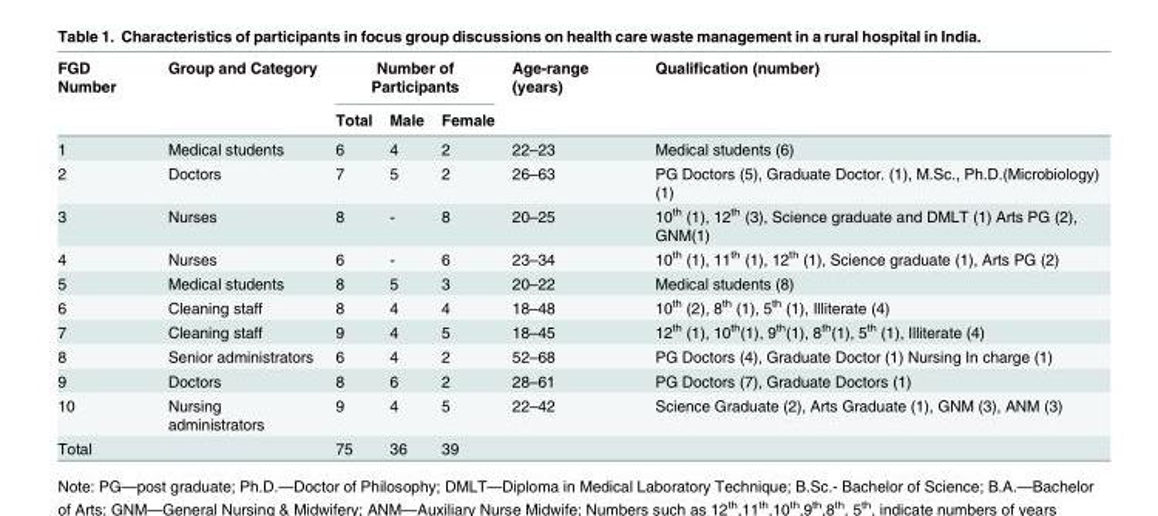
<table><thead><tr><td rowspan="2">FGD Number</td><td rowspan="2">Group and Category</td><td colspan="3">Number of Participants</td><td rowspan="2">Age-range (years)</td><td rowspan="2">Qualification (number)</td></tr><tr><td>Total</td><td>Male</td><td>Female</td></tr></thead><tbody><tr><td>1</td><td>Medical students</td><td>6</td><td>4</td><td>2</td><td>22–23</td><td>Medical students (6)</td></tr><tr><td>2</td><td>Doctors</td><td>7</td><td>5</td><td>2</td><td>26–63</td><td>PG Doctors (5), Graduate Doctor. (1), M.Sc., Ph.D.(Microbiology) (1)</td></tr><tr><td>3</td><td>Nurses</td><td>8</td><td>-</td><td>8</td><td>20–25</td><td>10<sup>th</sup> (1), 12<sup>th</sup> (3), Science graduate and DMLT (1) Arts PG (2), GNM(1)</td></tr><tr><td>4</td><td>Nurses</td><td>6</td><td>-</td><td>6</td><td>23–34</td><td>10<sup>th</sup> (1), 11<sup>th</sup> (1), 12<sup>th</sup> (1), Science graduate (1), Arts PG (2)</td></tr><tr><td>5</td><td>Medical students</td><td>8</td><td>5</td><td>3</td><td>20–22</td><td>Medical students (8)</td></tr><tr><td>6</td><td>Cleaning staff</td><td>8</td><td>4</td><td>4</td><td>18–48</td><td>10<sup>th</sup> (2), 8<sup>th</sup> (1), 5<sup>th</sup> (1), Illiterate (4)</td></tr><tr><td>7</td><td>Cleaning staff</td><td>9</td><td>4</td><td>5</td><td>18–45</td><td>12<sup>th</sup> (1), 10<sup>th</sup>(1), 9<sup>th</sup>(1), 8<sup>th</sup>(1), 5<sup>th</sup> (1), Illiterate (4)</td></tr><tr><td>8</td><td>Senior administrators</td><td>6</td><td>4</td><td>2</td><td>52–68</td><td>PG Doctors (4), Graduate Doctor (1) Nursing In charge (1)</td></tr><tr><td>9</td><td>Doctors</td><td>8</td><td>6</td><td>2</td><td>28–61</td><td>PG Doctors (7), Graduate Doctors (1)</td></tr><tr><td>10</td><td>Nursing administrators</td><td>9</td><td>4</td><td>5</td><td>22–42</td><td>Science Graduate (2), Arts Graduate (1), GNM (3), ANM (3)</td></tr><tr><td>Total</td><td></td><td>75</td><td>36</td><td>39</td><td></td><td></td></tr></tbody></table>